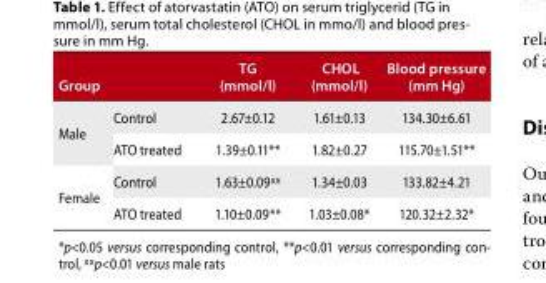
<table><thead><tr><td>Group</td><td></td><td>TG (mmol/l)</td><td>CHOL (mmol/l)</td><td>Blood pressure (mm Hg)</td></tr></thead><tbody><tr><td rowspan="2">Male</td><td>Control</td><td>2.67±0.12</td><td>1.61±0.13</td><td>134.30±6.61</td></tr><tr><td>ATO treated</td><td>1.39±0.11**</td><td>1.82±0.27</td><td>115.70±1.51**</td></tr><tr><td rowspan="2">Female</td><td>Control</td><td>1.63±0.09<sup>xx</sup></td><td>1.34±0.03</td><td>133.82±4.21</td></tr><tr><td>ATO treated</td><td>1.10±0.09**</td><td>1.03±0.08*</td><td>120.32±2.32*</td></tr></tbody></table>